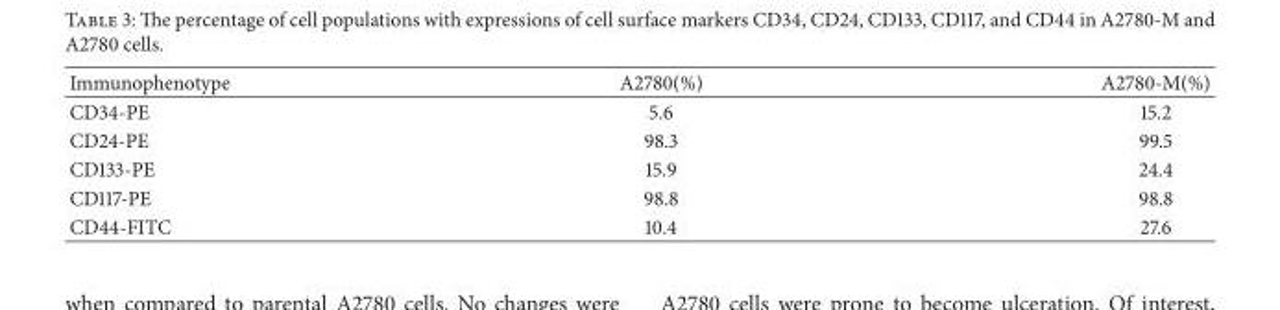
<table><thead><tr><td>Immunophenotype</td><td>A2780(%)</td><td>A2780-M(%)</td></tr></thead><tbody><tr><td>CD34-PE</td><td>5.6</td><td>15.2</td></tr><tr><td>CD24-PE</td><td>98.3</td><td>99.5</td></tr><tr><td>CD133-PE</td><td>15.9</td><td>24.4</td></tr><tr><td>CD117-PE</td><td>98.8</td><td>98.8</td></tr><tr><td>CD44-FITC</td><td>10.4</td><td>27.6</td></tr></tbody></table>